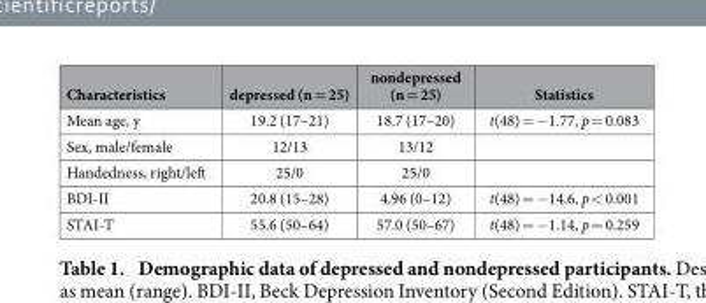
<table><thead><tr><td>Characteristics</td><td>depressed (n = 25)</td><td>nondepressed (n = 25)</td><td>Statistics</td></tr></thead><tbody><tr><td>Mean age, y</td><td>19.2 (17–21)</td><td>18.7 (17–20)</td><td>t(48) = − 1.77, p = 0.083</td></tr><tr><td>Sex, male/female</td><td>12/13</td><td>13/12</td><td></td></tr><tr><td>Handedness, right/left</td><td>25/0</td><td>25/0</td><td></td></tr><tr><td>BDI-II</td><td>20.8 (15–28)</td><td>4.96 (0–12)</td><td>t(48) = − 14.6, p &lt; 0.001</td></tr><tr><td>STAI-T</td><td>55.6 (50–64)</td><td>57.0 (50–67)</td><td>t(48) = − 1.14, p = 0.259</td></tr></tbody></table>